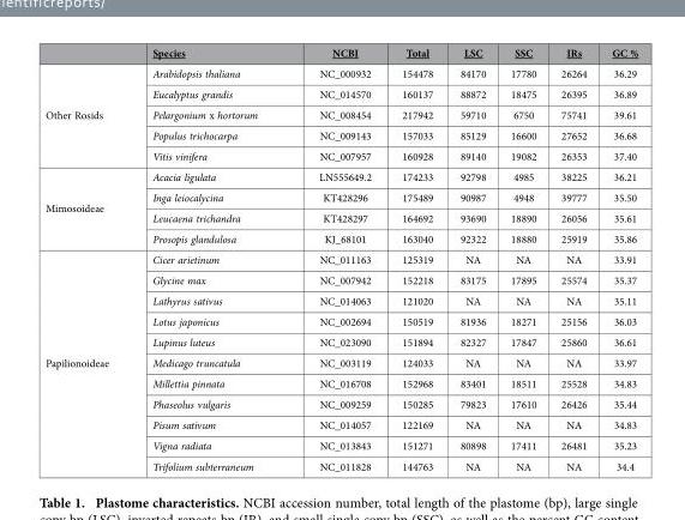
<table><thead><tr><td></td><td>Species</td><td>NCBI</td><td>Total</td><td>LSC</td><td>SSC</td><td>IRs</td><td>GC %</td></tr></thead><tbody><tr><td rowspan="5">Other Rosids</td><td>Arabidopsis thaliana</td><td>NC_000932</td><td>154478</td><td>84170</td><td>17780</td><td>26264</td><td>36.29</td></tr><tr><td>Eucalyptus grandis</td><td>NC_014570</td><td>160137</td><td>88872</td><td>18475</td><td>26395</td><td>36.89</td></tr><tr><td>Pelargonium x hortorum</td><td>NC_008454</td><td>217942</td><td>59710</td><td>6750</td><td>75741</td><td>39.61</td></tr><tr><td>Populus trichocarpa</td><td>NC_009143</td><td>157033</td><td>85129</td><td>16600</td><td>27652</td><td>36.68</td></tr><tr><td>Vitis vinifera</td><td>NC_007957</td><td>160928</td><td>89140</td><td>19082</td><td>26353</td><td>37.40</td></tr><tr><td rowspan="4">Mimosoideae</td><td>Acacia ligulata</td><td>LN555649.2</td><td>174233</td><td>92798</td><td>4985</td><td>38225</td><td>36.21</td></tr><tr><td>Inga leiocalycina</td><td>KT428296</td><td>175489</td><td>90987</td><td>4948</td><td>39777</td><td>35.50</td></tr><tr><td>Leucaena trichandra</td><td>KT428297</td><td>164692</td><td>93690</td><td>18890</td><td>26056</td><td>35.61</td></tr><tr><td>Prosopis glandulosa</td><td>KJ_68101</td><td>163040</td><td>92322</td><td>18880</td><td>25919</td><td>35.86</td></tr><tr><td rowspan="11">Papilionoideae</td><td>Cicer arietinum</td><td>NC_011163</td><td>125319</td><td>NA</td><td>NA</td><td>NA</td><td>33.91</td></tr><tr><td>Glycine max</td><td>NC_007942</td><td>152218</td><td>83175</td><td>17895</td><td>25574</td><td>35.37</td></tr><tr><td>Lathyrus sativus</td><td>NC_014063</td><td>121020</td><td>NA</td><td>NA</td><td>NA</td><td>35.11</td></tr><tr><td>Lotus japonicus</td><td>NC_002694</td><td>150519</td><td>81936</td><td>18271</td><td>25156</td><td>36.03</td></tr><tr><td>Lupinus luteus</td><td>NC_023090</td><td>151894</td><td>82327</td><td>17847</td><td>25860</td><td>36.61</td></tr><tr><td>Medicago truncatula</td><td>NC_003119</td><td>124033</td><td>NA</td><td>NA</td><td>NA</td><td>33.97</td></tr><tr><td>Millettia pinnata</td><td>NC_016708</td><td>152968</td><td>83401</td><td>18511</td><td>25528</td><td>34.83</td></tr><tr><td>Phaseolus vulgaris</td><td>NC_009259</td><td>150285</td><td>79823</td><td>17610</td><td>26426</td><td>35.44</td></tr><tr><td>Pisum sativum</td><td>NC_014057</td><td>122169</td><td>NA</td><td>NA</td><td>NA</td><td>34.83</td></tr><tr><td>Vigna radiata</td><td>NC_013843</td><td>151271</td><td>80898</td><td>17411</td><td>26481</td><td>35.23</td></tr><tr><td>Trifolium subterraneum</td><td>NC_011828</td><td>144763</td><td>NA</td><td>NA</td><td>NA</td><td>34.4</td></tr></tbody></table>